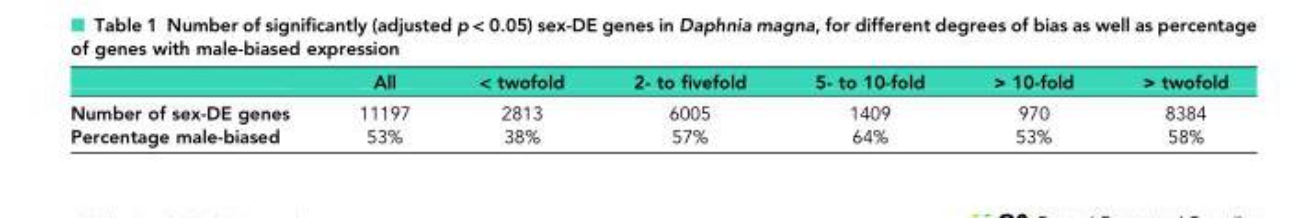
<table><thead><tr><td></td><td>All</td><td>&lt; twofold</td><td>2- to fivefold</td><td>5- to 10-fold</td><td>&gt; 10-fold</td><td>&gt; twofold</td></tr></thead><tbody><tr><td>Number of sex-DE genes</td><td>11197</td><td>2813</td><td>6005</td><td>1409</td><td>970</td><td>8384</td></tr><tr><td>Percentage male-biased</td><td>53%</td><td>38%</td><td>57%</td><td>64%</td><td>53%</td><td>58%</td></tr></tbody></table>